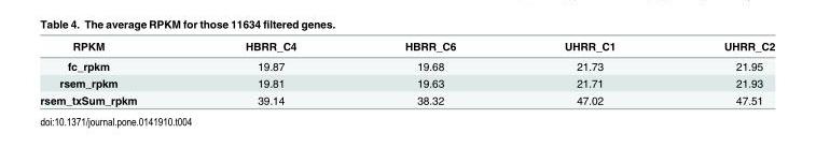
<table><thead><tr><td>RPKM</td><td>HBRR_C4</td><td>HBRR_C6</td><td>UHRR_C1</td><td>UHRR_C2</td></tr></thead><tbody><tr><td>fc_rpkm</td><td>19.87</td><td>19.68</td><td>21.73</td><td>21.95</td></tr><tr><td>rsem_rpkm</td><td>19.81</td><td>19.63</td><td>21.71</td><td>21.93</td></tr><tr><td>rsem_txSum_rpkm</td><td>39.14</td><td>38.32</td><td>47.02</td><td>47.51</td></tr></tbody></table>